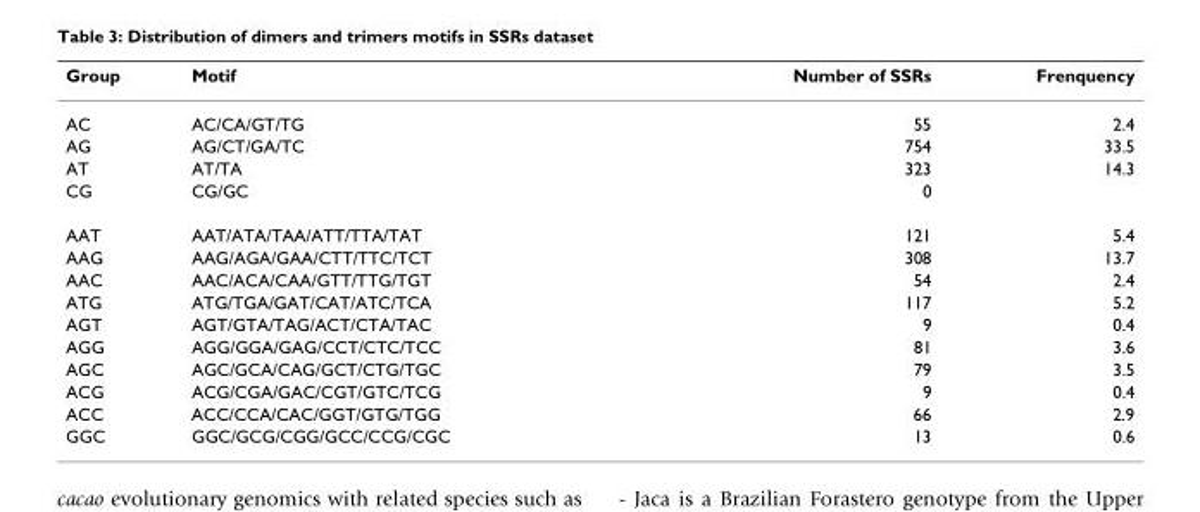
<table><thead><tr><td>Group</td><td>Motif</td><td>Number of SSRs</td><td>Frenquency</td></tr></thead><tbody><tr><td>AC</td><td>AC/CA/GT/TG</td><td>55</td><td>2.4</td></tr><tr><td>AG</td><td>AG/CT/GA/TC</td><td>754</td><td>33.5</td></tr><tr><td>AT</td><td>AT/TA</td><td>323</td><td>14.3</td></tr><tr><td>CG</td><td>CG/GC</td><td>0</td><td></td></tr><tr><td>AAT</td><td>AAT/ATA/TAA/ATT/TTA/TAT</td><td>121</td><td>5.4</td></tr><tr><td>AAG</td><td>AAG/AGA/GAA/CTT/TTC/TCT</td><td>308</td><td>13.7</td></tr><tr><td>AAC</td><td>AAC/ACA/CAA/GTT/TTG/TGT</td><td>54</td><td>2.4</td></tr><tr><td>ATG</td><td>ATG/TGA/GAT/CAT/ATC/TCA</td><td>117</td><td>5.2</td></tr><tr><td>AGT</td><td>AGT/GTA/TAG/ACT/CTA/TAC</td><td>9</td><td>0.4</td></tr><tr><td>AGG</td><td>AGG/GGA/GAG/CCT/CTC/TCC</td><td>81</td><td>3.6</td></tr><tr><td>AGC</td><td>AGC/GCA/CAG/GCT/CTG/TGC</td><td>79</td><td>3.5</td></tr><tr><td>ACG</td><td>ACG/CGA/GAC/CGT/GTC/TCG</td><td>9</td><td>0.4</td></tr><tr><td>ACC</td><td>ACC/CCA/CAC/GGT/GTG/TGG</td><td>66</td><td>2.9</td></tr><tr><td>GGC</td><td>GGC/GCG/CGG/GCC/CCG/CGC</td><td>13</td><td>0.6</td></tr></tbody></table>